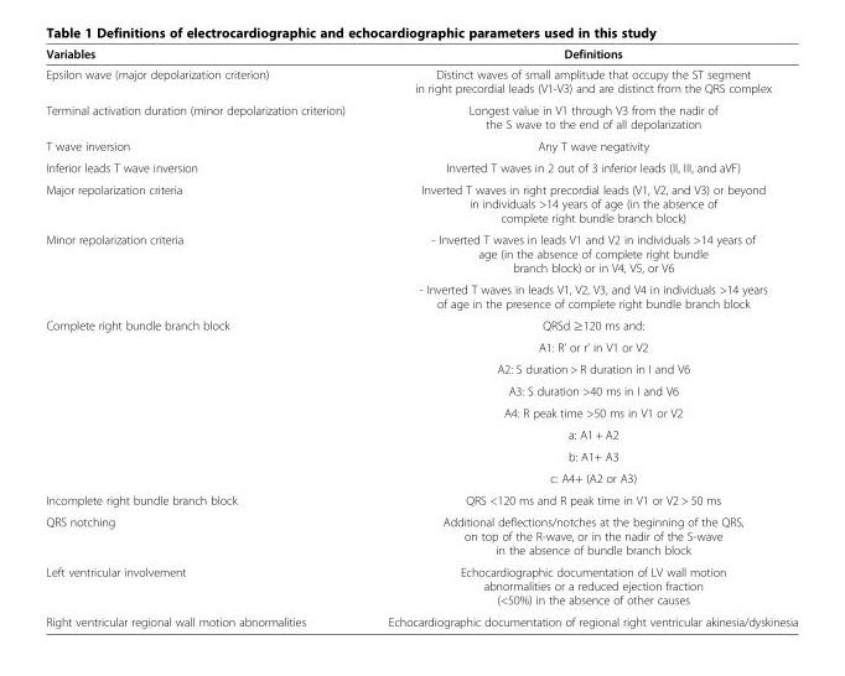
<table><thead><tr><td>Variables</td><td>Definitions</td></tr></thead><tbody><tr><td>Epsilon wave (major depolarization criterion)</td><td>Distinct waves of small amplitude that occupy the ST segment in right precordial leads (V1-V3) and are distinct from the QRS complex</td></tr><tr><td>Terminal activation duration (minor depolarization criterion)</td><td>Longest value in V1 through V3 from the nadir of the S wave to the end of all depolarization</td></tr><tr><td>T wave inversion</td><td>Any T wave negativity</td></tr><tr><td>Inferior leads T wave inversion</td><td>Inverted T waves in 2 out of 3 inferior leads (II, III, and aVF)</td></tr><tr><td>Major repolarization criteria</td><td>Inverted T waves in right precordial leads (V1, V2, and V3) or beyond in individuals &gt;14 years of age (in the absence of complete right bundle branch block)</td></tr><tr><td rowspan="2">Minor repolarization criteria</td><td>- Inverted T waves in leads V1 and V2 in individuals &gt;14 years of age (in the absence of complete right bundle branch block) or in V4, V5, or V6</td></tr><tr><td>- Inverted T waves in leads V1, V2, V3, and V4 in individuals &gt;14 years of age in the presence of complete right bundle branch block</td></tr><tr><td rowspan="8">Complete right bundle branch block</td><td>QRSd ≥120 ms and:</td></tr><tr><td>A1: R’ or r’ in V1 or V2</td></tr><tr><td>A2: S duration &gt; R duration in I and V6</td></tr><tr><td>A3: S duration &gt;40 ms in I and V6</td></tr><tr><td>A4: R peak time &gt;50 ms in V1 or V2</td></tr><tr><td>a: A1 + A2</td></tr><tr><td>b: A1+ A3</td></tr><tr><td>c: A4+ (A2 or A3)</td></tr><tr><td>Incomplete right bundle branch block</td><td>QRS &lt;120 ms and R peak time in V1 or V2 &gt; 50 ms</td></tr><tr><td>QRS notching</td><td>Additional deflections/notches at the beginning of the QRS, on top of the R-wave, or in the nadir of the S-wave in the absence of bundle branch block</td></tr><tr><td>Left ventricular involvement</td><td>Echocardiographic documentation of LV wall motion abnormalities or a reduced ejection fraction (&lt;50%) in the absence of other causes</td></tr><tr><td>Right ventricular regional wall motion abnormalities</td><td>Echocardiographic documentation of regional right ventricular akinesia/dyskinesia</td></tr></tbody></table>